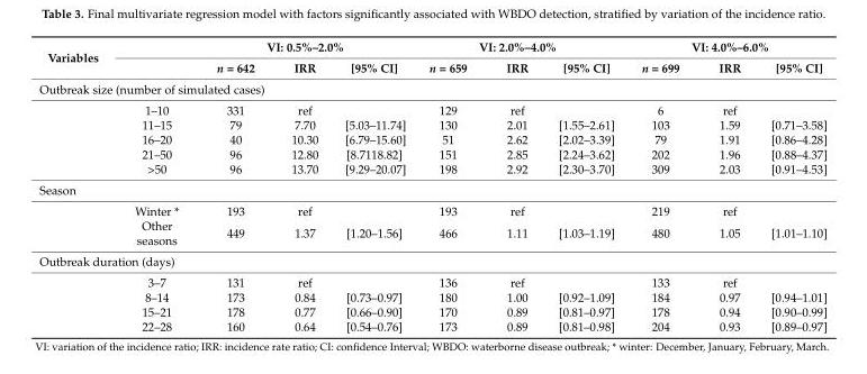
<table><thead><tr><td rowspan="2">Variables</td><td rowspan="2"></td><td colspan="3">VI: 0.5%–2.0%</td><td colspan="3">VI: 2.0%–4.0%</td><td colspan="3">VI: 4.0%–6.0%</td></tr><tr><td>n = 642</td><td>IRR</td><td>[95% CI]</td><td>n = 659</td><td>IRR</td><td>[95% CI]</td><td>n = 699</td><td>IRR</td><td>[95% CI]</td></tr></thead><tbody><tr><td colspan="11">Outbreak size (number of simulated cases)</td></tr><tr><td></td><td>1–10</td><td>331</td><td>ref</td><td></td><td>129</td><td>ref</td><td></td><td>6</td><td>ref</td><td></td></tr><tr><td></td><td>11–15</td><td>79</td><td>7.70</td><td>[5.03–11.74]</td><td>130</td><td>2.01</td><td>[1.55–2.61]</td><td>103</td><td>1.59</td><td>[0.71–3.58]</td></tr><tr><td></td><td>16–20</td><td>40</td><td>10.30</td><td>[6.79–15.60]</td><td>51</td><td>2.62</td><td>[2.02–3.39]</td><td>79</td><td>1.91</td><td>[0.86–4.28]</td></tr><tr><td></td><td>21–50</td><td>96</td><td>12.80</td><td>[8.7118.82]</td><td>151</td><td>2.85</td><td>[2.24–3.62]</td><td>202</td><td>1.96</td><td>[0.88–4.37]</td></tr><tr><td></td><td>&gt;50</td><td>96</td><td>13.70</td><td>[9.29–20.07]</td><td>198</td><td>2.92</td><td>[2.30–3.70]</td><td>309</td><td>2.03</td><td>[0.91–4.53]</td></tr><tr><td colspan="11">Season</td></tr><tr><td></td><td>Winter *</td><td>193</td><td>ref</td><td></td><td>193</td><td>ref</td><td></td><td>219</td><td>ref</td><td></td></tr><tr><td></td><td>Other seasons</td><td>449</td><td>1.37</td><td>[1.20–1.56]</td><td>466</td><td>1.11</td><td>[1.03–1.19]</td><td>480</td><td>1.05</td><td>[1.01–1.10]</td></tr><tr><td colspan="11">Outbreak duration (days)</td></tr><tr><td></td><td>3–7</td><td>131</td><td>ref</td><td></td><td>136</td><td>ref</td><td></td><td>133</td><td>ref</td><td></td></tr><tr><td></td><td>8–14</td><td>173</td><td>0.84</td><td>[0.73–0.97]</td><td>180</td><td>1.00</td><td>[0.92–1.09]</td><td>184</td><td>0.97</td><td>[0.94–1.01]</td></tr><tr><td></td><td>15–21</td><td>178</td><td>0.77</td><td>[0.66–0.90]</td><td>170</td><td>0.89</td><td>[0.81–0.97]</td><td>178</td><td>0.94</td><td>[0.90–0.99]</td></tr><tr><td></td><td>22–28</td><td>160</td><td>0.64</td><td>[0.54–0.76]</td><td>173</td><td>0.89</td><td>[0.81–0.98]</td><td>204</td><td>0.93</td><td>[0.89–0.97]</td></tr></tbody></table>